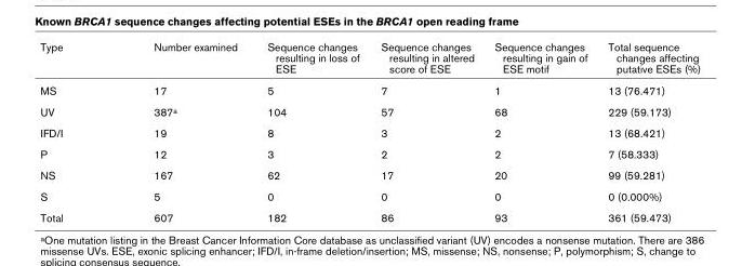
<table><thead><tr><td>Type</td><td>Number examined</td><td>Sequence changes resulting in loss of ESE</td><td>Sequence changes resulting in altered score of ESE</td><td>Sequence changes resulting in gain of ESE motif</td><td>Total sequence changes affecting putative ESEs (%)</td></tr></thead><tbody><tr><td>MS</td><td>17</td><td>5</td><td>7</td><td>1</td><td>13 (76.471)</td></tr><tr><td>UV</td><td>387a</td><td>104</td><td>57</td><td>68</td><td>229 (59.173)</td></tr><tr><td>IFD/I</td><td>19</td><td>8</td><td>3</td><td>2</td><td>13 (68.421)</td></tr><tr><td>P</td><td>12</td><td>3</td><td>2</td><td>2</td><td>7 (58.333)</td></tr><tr><td>NS</td><td>167</td><td>62</td><td>17</td><td>20</td><td>99 (59.281)</td></tr><tr><td>S</td><td>5</td><td>0</td><td>0</td><td>0</td><td>0 (0.000%)</td></tr><tr><td>Total</td><td>607</td><td>182</td><td>86</td><td>93</td><td>361 (59.473)</td></tr></tbody></table>